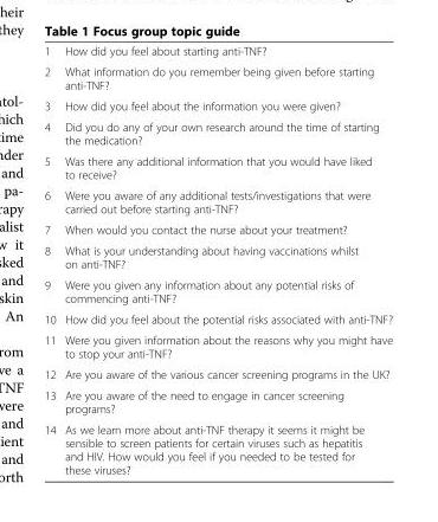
<table><tbody><tr><td>1</td><td>How did you feel about starting anti-TNF?</td></tr><tr><td>2</td><td>What information do you remember being given before starting anti-TNF?</td></tr><tr><td>3</td><td>How did you feel about the information you were given?</td></tr><tr><td>4</td><td>Did you do any of your own research around the time of starting the medication?</td></tr><tr><td>5</td><td>Was there any additional information that you would have liked to receive?</td></tr><tr><td>6</td><td>Were you aware of any additional tests/investigations that were carried out before starting anti-TNF?</td></tr><tr><td>7</td><td>When would you contact the nurse about your treatment?</td></tr><tr><td>8</td><td>What is your understanding about having vaccinations whilst on anti-TNF?</td></tr><tr><td>9</td><td>Were you given any information about any potential risks of commencing anti-TNF?</td></tr><tr><td>10</td><td>How did you feel about the potential risks associated with anti-TNF?</td></tr><tr><td>11</td><td>Were you given information about the reasons why you might have to stop your anti-TNF?</td></tr><tr><td>12</td><td>Are you aware of the various cancer screening programs in the UK?</td></tr><tr><td>13</td><td>Are you aware of the need to engage in cancer screening programs?</td></tr><tr><td>14</td><td>As we learn more about anti-TNF therapy it seems it might be sensible to screen patients for certain viruses such as hepatitis and HIV. How would you feel if you needed to be tested for these viruses?</td></tr></tbody></table>